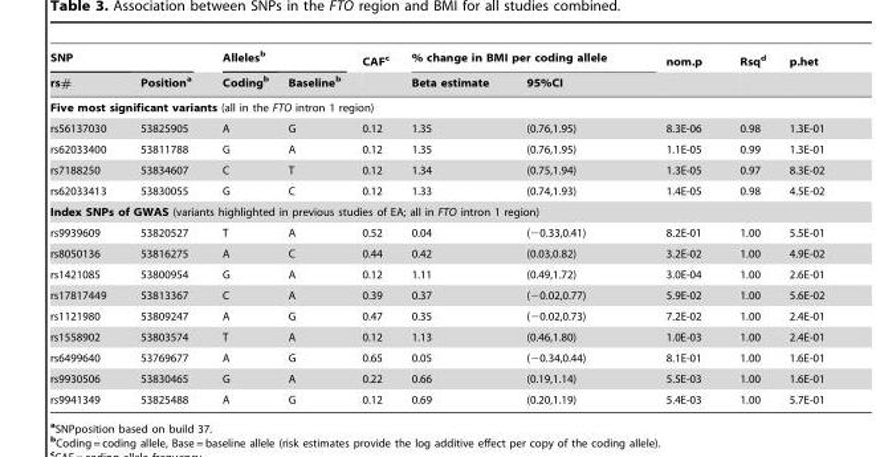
<table><thead><tr><td rowspan="2">SNP rs#</td><td rowspan="2">Position<sup>a</sup></td><td rowspan="2">Alleles<sup>b</sup> Coding<sup>b</sup></td><td rowspan="2">Baseline<sup>b</sup></td><td rowspan="2">CAF<sup>c</sup></td><td colspan="2">% change in BMI per coding allele</td><td rowspan="2">nom.p</td><td rowspan="2">Rsq<sup>d</sup></td><td rowspan="2">p.het</td></tr><tr><td>Beta estimate</td><td>95%CI</td></tr></thead><tbody><tr><td colspan="10">Five most significant variants (all in the FTO intron 1 region)</td></tr><tr><td>rs56137030</td><td>53825905</td><td>A</td><td>G</td><td>0.12</td><td>1.35</td><td>(0.76,1.95)</td><td>8.3E-06</td><td>0.98</td><td>1.3E-01</td></tr><tr><td>rs62033400</td><td>53811788</td><td>G</td><td>A</td><td>0.12</td><td>1.35</td><td>(0.76,1.95)</td><td>1.1E-05</td><td>0.99</td><td>1.3E-01</td></tr><tr><td>rs7188250</td><td>53834607</td><td>C</td><td>T</td><td>0.12</td><td>1.34</td><td>(0.75,1.94)</td><td>1.3E-05</td><td>0.97</td><td>8.3E-02</td></tr><tr><td>rs62033413</td><td>53830055</td><td>G</td><td>C</td><td>0.12</td><td>1.33</td><td>(0.74,1.93)</td><td>1.4E-05</td><td>0.98</td><td>4.5E-02</td></tr><tr><td colspan="10">Index SNPs of GWAS (variants highlighted in previous studies of EA; all in FTO intron 1 region)</td></tr><tr><td>rs9939609</td><td>53820527</td><td>T</td><td>A</td><td>0.52</td><td>0.04</td><td>(−0.33,0.41)</td><td>8.2E-01</td><td>1.00</td><td>5.5E-01</td></tr><tr><td>rs8050136</td><td>53816275</td><td>A</td><td>C</td><td>0.44</td><td>0.42</td><td>(0.03,0.82)</td><td>3.2E-02</td><td>1.00</td><td>4.9E-02</td></tr><tr><td>rs1421085</td><td>53800954</td><td>G</td><td>A</td><td>0.12</td><td>1.11</td><td>(0.49,1.72)</td><td>3.0E-04</td><td>1.00</td><td>2.6E-01</td></tr><tr><td>rs17817449</td><td>53813367</td><td>C</td><td>A</td><td>0.39</td><td>0.37</td><td>(−0.02,0.77)</td><td>5.9E-02</td><td>1.00</td><td>5.6E-02</td></tr><tr><td>rs1121980</td><td>53809247</td><td>A</td><td>G</td><td>0.47</td><td>0.35</td><td>(−0.02,0.73)</td><td>7.2E-02</td><td>1.00</td><td>2.4E-01</td></tr><tr><td>rs1558902</td><td>53803574</td><td>T</td><td>A</td><td>0.12</td><td>1.13</td><td>(0.46,1.80)</td><td>1.0E-03</td><td>1.00</td><td>2.4E-01</td></tr><tr><td>rs6499640</td><td>53769677</td><td>A</td><td>G</td><td>0.65</td><td>0.05</td><td>(−0.34,0.44)</td><td>8.1E-01</td><td>1.00</td><td>1.6E-01</td></tr><tr><td>rs9930506</td><td>53830465</td><td>G</td><td>A</td><td>0.22</td><td>0.66</td><td>(0.19,1.14)</td><td>5.5E-03</td><td>1.00</td><td>1.6E-01</td></tr><tr><td>rs9941349</td><td>53825488</td><td>A</td><td>G</td><td>0.12</td><td>0.69</td><td>(0.20,1.19)</td><td>5.4E-03</td><td>1.00</td><td>5.7E-01</td></tr></tbody></table>